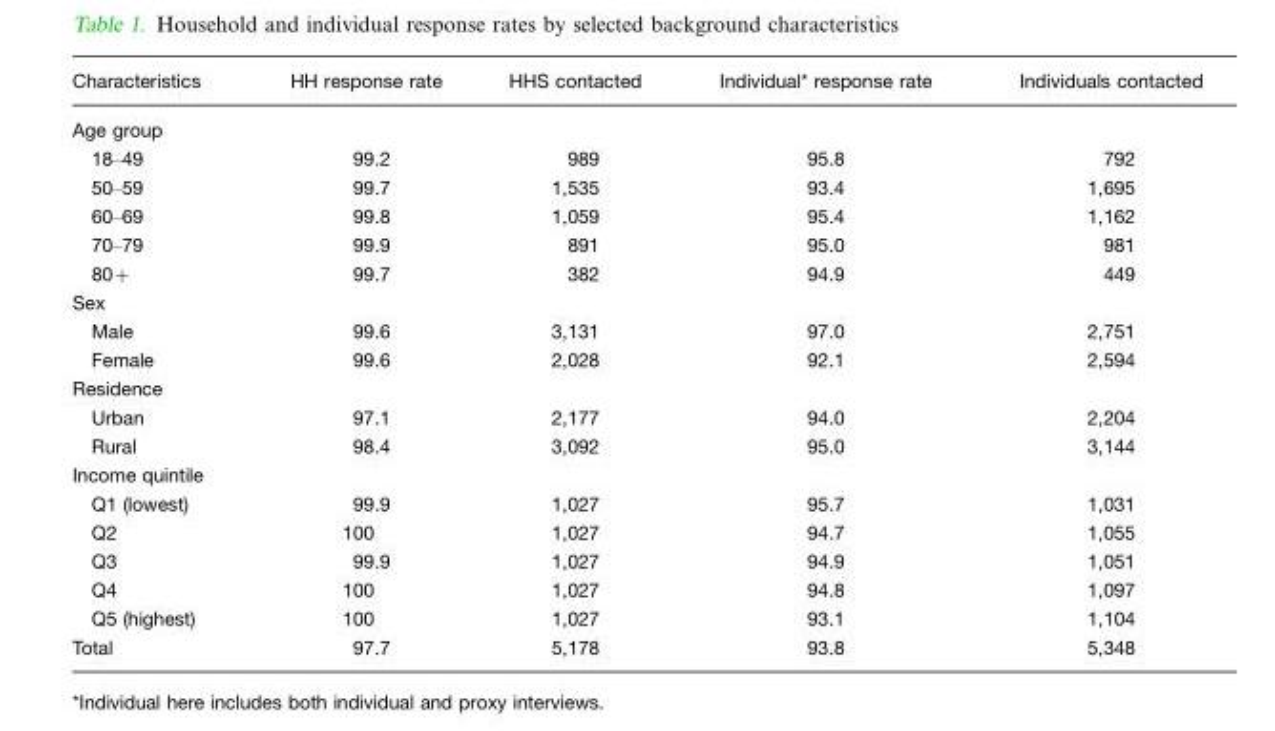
<table><thead><tr><td>Characteristics</td><td>HH response rate</td><td>HHS contacted</td><td>Individual* response rate</td><td>Individuals contacted</td></tr></thead><tbody><tr><td colspan="5">Age group</td></tr><tr><td>18–49</td><td>99.2</td><td>989</td><td>95.8</td><td>792</td></tr><tr><td>50–59</td><td>99.7</td><td>1,535</td><td>93.4</td><td>1,695</td></tr><tr><td>60–69</td><td>99.8</td><td>1,059</td><td>95.4</td><td>1,162</td></tr><tr><td>70–79</td><td>99.9</td><td>891</td><td>95.0</td><td>981</td></tr><tr><td>80+</td><td>99.7</td><td>382</td><td>94.9</td><td>449</td></tr><tr><td colspan="5">Sex</td></tr><tr><td>Male</td><td>99.6</td><td>3,131</td><td>97.0</td><td>2,751</td></tr><tr><td>Female</td><td>99.6</td><td>2,028</td><td>92.1</td><td>2,594</td></tr><tr><td colspan="5">Residence</td></tr><tr><td>Urban</td><td>97.1</td><td>2,177</td><td>94.0</td><td>2,204</td></tr><tr><td>Rural</td><td>98.4</td><td>3,092</td><td>95.0</td><td>3,144</td></tr><tr><td colspan="5">Income quintile</td></tr><tr><td>Q1 (lowest)</td><td>99.9</td><td>1,027</td><td>95.7</td><td>1,031</td></tr><tr><td>Q2</td><td>100</td><td>1,027</td><td>94.7</td><td>1,055</td></tr><tr><td>Q3</td><td>99.9</td><td>1,027</td><td>94.9</td><td>1,051</td></tr><tr><td>Q4</td><td>100</td><td>1,027</td><td>94.8</td><td>1,097</td></tr><tr><td>Q5 (highest)</td><td>100</td><td>1,027</td><td>93.1</td><td>1,104</td></tr><tr><td>Total</td><td>97.7</td><td>5,178</td><td>93.8</td><td>5,348</td></tr></tbody></table>